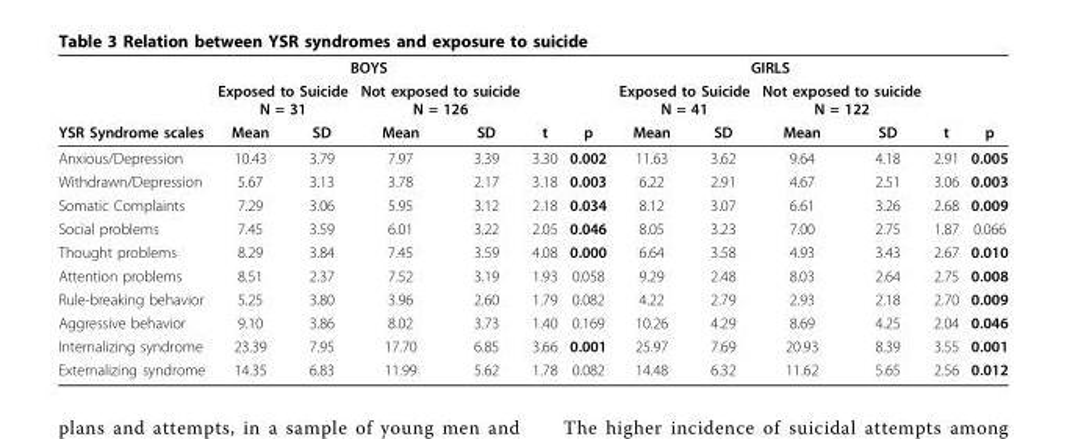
<table><thead><tr><td rowspan="3">YSR Syndrome scales</td><td colspan="4">BOYS</td><td rowspan="3">t</td><td rowspan="3">p</td><td colspan="4">GIRLS</td><td rowspan="3">t</td><td rowspan="3">p</td></tr><tr><td colspan="2">Exposed to Suicide N = 31</td><td colspan="2">Not exposed to suicide N = 126</td><td colspan="2">Exposed to Suicide N = 41</td><td colspan="2">Not exposed to suicide N = 122</td></tr><tr><td>Mean</td><td>SD</td><td>Mean</td><td>SD</td><td>Mean</td><td>SD</td><td>Mean</td><td>SD</td></tr></thead><tbody><tr><td>Anxious/Depression</td><td>10.43</td><td>3.79</td><td>7.97</td><td>3.39</td><td>3.30</td><td>0.002</td><td>11.63</td><td>3.62</td><td>9.64</td><td>4.18</td><td>2.91</td><td>0.005</td></tr><tr><td>Withdrawn/Depression</td><td>5.67</td><td>3.13</td><td>3.78</td><td>2.17</td><td>3.18</td><td>0.003</td><td>6.22</td><td>2.91</td><td>4.67</td><td>2.51</td><td>3.06</td><td>0.003</td></tr><tr><td>Somatic Complaints</td><td>7.29</td><td>3.06</td><td>5.95</td><td>3.12</td><td>2.18</td><td>0.034</td><td>8.12</td><td>3.07</td><td>6.61</td><td>3.26</td><td>2.68</td><td>0.009</td></tr><tr><td>Social problems</td><td>7.45</td><td>3.59</td><td>6.01</td><td>3.22</td><td>2.05</td><td>0.046</td><td>8.05</td><td>3.23</td><td>7.00</td><td>2.75</td><td>1.87</td><td>0.066</td></tr><tr><td>Thought problems</td><td>8.29</td><td>3.84</td><td>7.45</td><td>3.59</td><td>4.08</td><td>0.000</td><td>6.64</td><td>3.58</td><td>4.93</td><td>3.43</td><td>2.67</td><td>0.010</td></tr><tr><td>Attention problems</td><td>8.51</td><td>2.37</td><td>7.52</td><td>3.19</td><td>1.93</td><td>0.058</td><td>9.29</td><td>2.48</td><td>8.03</td><td>2.64</td><td>2.75</td><td>0.008</td></tr><tr><td>Rule-breaking behavior</td><td>5.25</td><td>3.80</td><td>3.96</td><td>2.60</td><td>1.79</td><td>0.082</td><td>4.22</td><td>2.79</td><td>2.93</td><td>2.18</td><td>2.70</td><td>0.009</td></tr><tr><td>Aggressive behavior</td><td>9.10</td><td>3.86</td><td>8.02</td><td>3.73</td><td>1.40</td><td>0.169</td><td>10.26</td><td>4.29</td><td>8.69</td><td>4.25</td><td>2.04</td><td>0.046</td></tr><tr><td>Internalizing syndrome</td><td>23.39</td><td>7.95</td><td>17.70</td><td>6.85</td><td>3.66</td><td>0.001</td><td>25.97</td><td>7.69</td><td>20.93</td><td>8.39</td><td>3.55</td><td>0.001</td></tr><tr><td>Externalizing syndrome</td><td>14.35</td><td>6.83</td><td>11.99</td><td>5.62</td><td>1.78</td><td>0.082</td><td>14.48</td><td>6.32</td><td>11.62</td><td>5.65</td><td>2.56</td><td>0.012</td></tr></tbody></table>